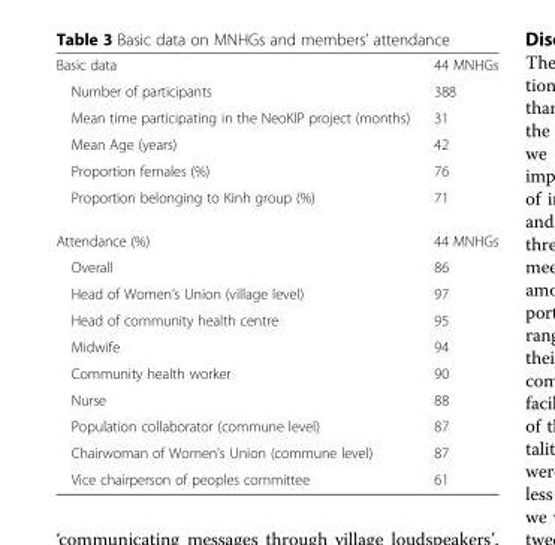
<table><tbody><tr><td>Basic data</td><td>44 MNHGs</td></tr><tr><td>Number of participants</td><td>388</td></tr><tr><td>Mean time participating in the NeoKIP project (months)</td><td>31</td></tr><tr><td>Mean Age (years)</td><td>42</td></tr><tr><td>Proportion females (%)</td><td>76</td></tr><tr><td>Proportion belonging to Kinh group (%)</td><td>71</td></tr><tr><td>Attendance (%)</td><td>44 MNHGs</td></tr><tr><td>Overall</td><td>86</td></tr><tr><td>Head of Women’s Union (village level)</td><td>97</td></tr><tr><td>Head of community health centre</td><td>95</td></tr><tr><td>Midwife</td><td>94</td></tr><tr><td>Community health worker</td><td>90</td></tr><tr><td>Nurse</td><td>88</td></tr><tr><td>Population collaborator (commune level)</td><td>87</td></tr><tr><td>Chairwoman of Women’s Union (commune level)</td><td>87</td></tr><tr><td>Vice chairperson of peoples committee</td><td>61</td></tr></tbody></table>